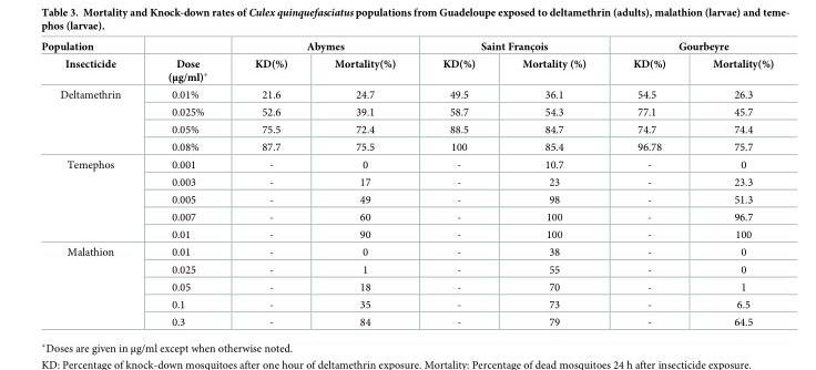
<table><thead><tr><td rowspan="2">Population Insecticide</td><td rowspan="2">Dose (μg/ml)*</td><td colspan="2">Abymes</td><td colspan="2">Saint Franc¸ois</td><td colspan="2">Gourbeyre</td></tr><tr><td>KD(%)</td><td>Mortality(%)</td><td>KD(%)</td><td>Mortality (%)</td><td>KD(%)</td><td>Mortality(%)</td></tr></thead><tbody><tr><td rowspan="4">Deltamethrin</td><td>0.01%</td><td>21.6</td><td>24.7</td><td>49.5</td><td>36.1</td><td>54.5</td><td>26.3</td></tr><tr><td>0.025%</td><td>52.6</td><td>39.1</td><td>58.7</td><td>54.3</td><td>77.1</td><td>45.7</td></tr><tr><td>0.05%</td><td>75.5</td><td>72.4</td><td>88.5</td><td>84.7</td><td>74.7</td><td>74.4</td></tr><tr><td>0.08%</td><td>87.7</td><td>75.5</td><td>100</td><td>85.4</td><td>96.78</td><td>75.7</td></tr><tr><td rowspan="5">Temephos</td><td>0.001</td><td>-</td><td>0</td><td>-</td><td>10.7</td><td>-</td><td>0</td></tr><tr><td>0.003</td><td>-</td><td>17</td><td>-</td><td>23</td><td>-</td><td>23.3</td></tr><tr><td>0.005</td><td>-</td><td>49</td><td>-</td><td>98</td><td>-</td><td>51.3</td></tr><tr><td>0.007</td><td>-</td><td>60</td><td>-</td><td>100</td><td>-</td><td>96.7</td></tr><tr><td>0.01</td><td>-</td><td>90</td><td>-</td><td>100</td><td>-</td><td>100</td></tr><tr><td rowspan="5">Malathion</td><td>0.01</td><td>-</td><td>0</td><td>-</td><td>38</td><td>-</td><td>0</td></tr><tr><td>0.025</td><td>-</td><td>1</td><td>-</td><td>55</td><td>-</td><td>0</td></tr><tr><td>0.05</td><td>-</td><td>18</td><td>-</td><td>70</td><td>-</td><td>1</td></tr><tr><td>0.1</td><td>-</td><td>35</td><td>-</td><td>73</td><td>-</td><td>6.5</td></tr><tr><td>0.3</td><td>-</td><td>84</td><td>-</td><td>79</td><td>-</td><td>64.5</td></tr></tbody></table>